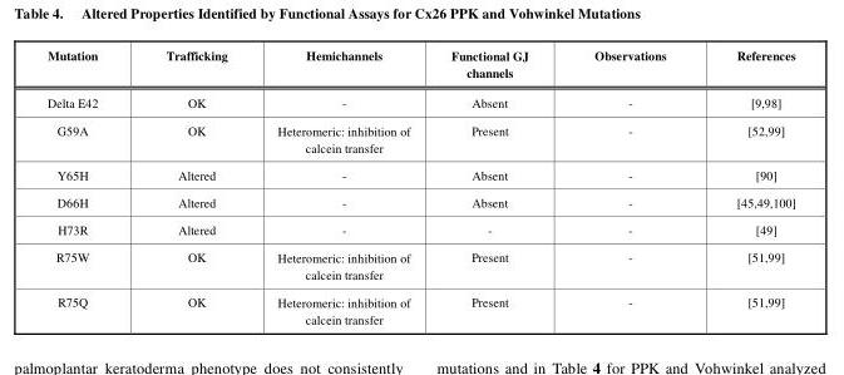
<table><thead><tr><td>Mutation</td><td>Trafficking</td><td>Hemichannels</td><td>Functional GJ channels</td><td>Observations</td><td>References</td></tr></thead><tbody><tr><td>Delta E42</td><td>OK</td><td>-</td><td>Absent</td><td>-</td><td>[9,98]</td></tr><tr><td>G59A</td><td>OK</td><td>Heteromeric: inhibition of calcein transfer</td><td>Present</td><td>-</td><td>[52,99]</td></tr><tr><td>Y65H</td><td>Altered</td><td>-</td><td>Absent</td><td>-</td><td>[90]</td></tr><tr><td>D66H</td><td>Altered</td><td>-</td><td>Absent</td><td>-</td><td>[45,49,100]</td></tr><tr><td>H73R</td><td>Altered</td><td>-</td><td>-</td><td>-</td><td>[49]</td></tr><tr><td>R75W</td><td>OK</td><td>Heteromeric: inhibition of calcein transfer</td><td>Present</td><td>-</td><td>[51,99]</td></tr><tr><td>R75Q</td><td>OK</td><td>Heteromeric: inhibition of calcein transfer</td><td>Present</td><td>-</td><td>[51,99]</td></tr></tbody></table>